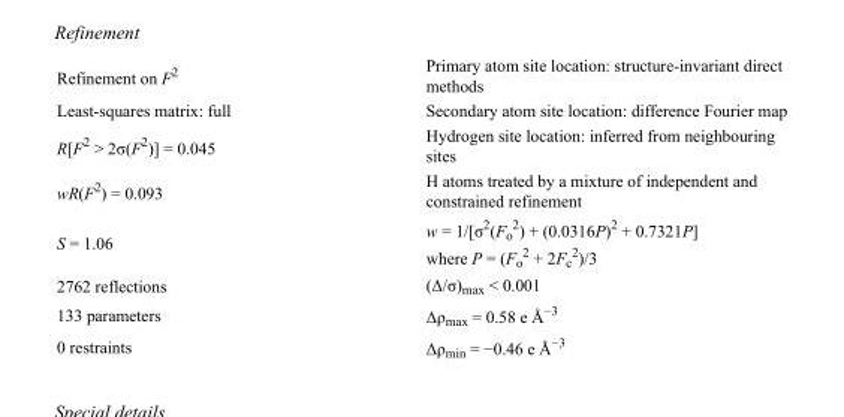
<table><tbody><tr><td>Refinement on F<sup>2</sup></td><td>Primary atom site location: structure-invariant direct methods</td></tr><tr><td>Least-squares matrix: full</td><td>Secondary atom site location: difference Fourier map</td></tr><tr><td>R[F<sup>2</sup> &gt; 2σ(F<sup>2</sup>)] = 0.045</td><td>Hydrogen site location: inferred from neighbouring sites</td></tr><tr><td>wR(F<sup>2</sup>) = 0.093</td><td>H atoms treated by a mixture of independent and constrained refinement</td></tr><tr><td>S = 1.06</td><td>w = 1/[σ<sup>2</sup>(F<sub>o</sub> <sup>2</sup>) + (0.0316P)<sup>2</sup> + 0.7321P] where P = (F<sub>o</sub> <sup>2</sup> + 2F<sub>c</sub> <sup>2</sup>)/3</td></tr><tr><td>2762 reflections</td><td>(Δ/σ)<sub>max</sub> &lt; 0.001</td></tr><tr><td>133 parameters</td><td>Δρ<sub>max</sub> = 0.58 e Å<sup>−3</sup></td></tr><tr><td>0 restraints</td><td>Δρ<sub>min</sub> = −0.46 e Å<sup>−3</sup></td></tr></tbody></table>